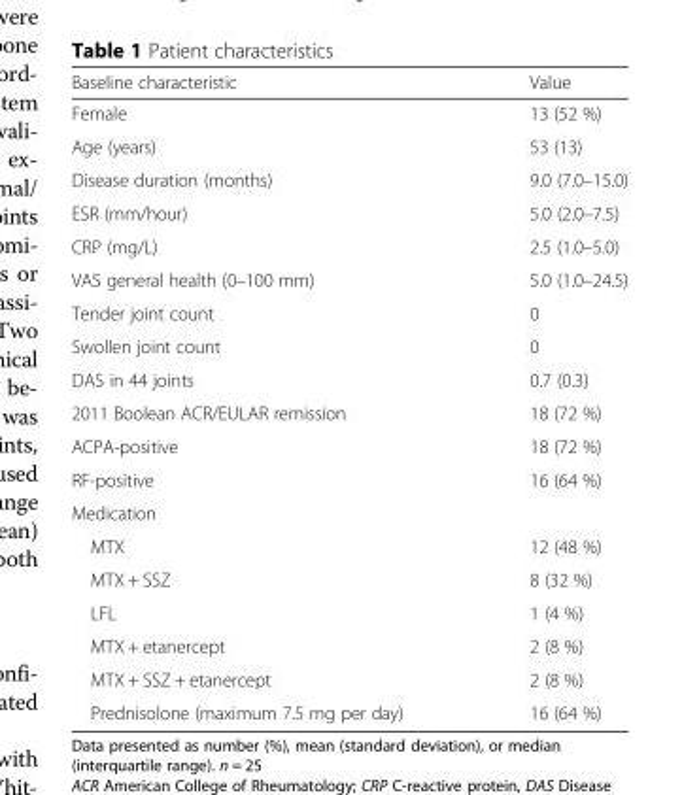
<table><thead><tr><td>Baseline characteristic</td><td>Value</td></tr></thead><tbody><tr><td>Female</td><td>13 (52 %)</td></tr><tr><td>Age (years)</td><td>53 (13)</td></tr><tr><td>Disease duration (months)</td><td>9.0 (7.0–15.0)</td></tr><tr><td>ESR (mm/hour)</td><td>5.0 (2.0–7.5)</td></tr><tr><td>CRP (mg/L)</td><td>2.5 (1.0–5.0)</td></tr><tr><td>VAS general health (0–100 mm)</td><td>5.0 (1.0–24.5)</td></tr><tr><td>Tender joint count</td><td>0</td></tr><tr><td>Swollen joint count</td><td>0</td></tr><tr><td>DAS in 44 joints</td><td>0.7 (0.3)</td></tr><tr><td>2011 Boolean ACR/EULAR remission</td><td>18 (72 %)</td></tr><tr><td>ACPA-positive</td><td>18 (72 %)</td></tr><tr><td>RF-positive</td><td>16 (64 %)</td></tr><tr><td colspan="2">Medication</td></tr><tr><td>MTX</td><td>12 (48 %)</td></tr><tr><td>MTX + SSZ</td><td>8 (32 %)</td></tr><tr><td>LFL</td><td>1 (4 %)</td></tr><tr><td>MTX + etanercept</td><td>2 (8 %)</td></tr><tr><td>MTX + SSZ + etanercept</td><td>2 (8 %)</td></tr><tr><td>Prednisolone (maximum 7.5 mg per day)</td><td>16 (64 %)</td></tr></tbody></table>